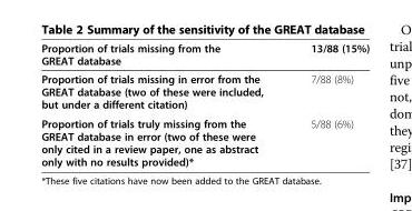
<table><thead><tr><td>Proportion of trials missing from the GREAT database</td><td>13/88 (15%)</td></tr></thead><tbody><tr><td>Proportion of trials missing in error from the GREAT database (two of these were included, but under a different citation)</td><td>7/88 (8%)</td></tr><tr><td>Proportion of trials truly missing from the GREAT database in error (two of these were only cited in a review paper, one as abstract only with no results provided)*</td><td>5/88 (6%)</td></tr></tbody></table>